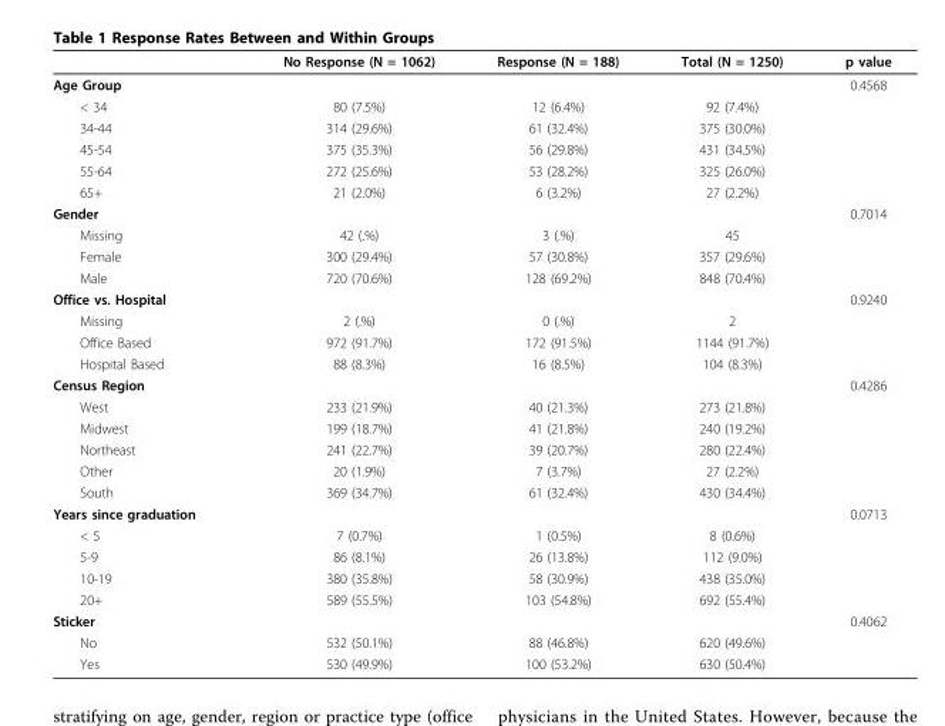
<table><thead><tr><td></td><td>No Response (N = 1062)</td><td>Response (N = 188)</td><td>Total (N = 1250)</td><td>p value</td></tr></thead><tbody><tr><td>Age Group</td><td></td><td></td><td></td><td>0.4568</td></tr><tr><td>&lt; 34</td><td>80 (7.5%)</td><td>12 (6.4%)</td><td>92 (7.4%)</td><td></td></tr><tr><td>34-44</td><td>314 (29.6%)</td><td>61 (32.4%)</td><td>375 (30.0%)</td><td></td></tr><tr><td>45-54</td><td>375 (35.3%)</td><td>56 (29.8%)</td><td>431 (34.5%)</td><td></td></tr><tr><td>55-64</td><td>272 (25.6%)</td><td>53 (28.2%)</td><td>325 (26.0%)</td><td></td></tr><tr><td>65+</td><td>21 (2.0%)</td><td>6 (3.2%)</td><td>27 (2.2%)</td><td></td></tr><tr><td>Gender</td><td></td><td></td><td></td><td>0.7014</td></tr><tr><td>Missing</td><td>42 (.%)</td><td>3 (.%)</td><td>45</td><td></td></tr><tr><td>Female</td><td>300 (29.4%)</td><td>57 (30.8%)</td><td>357 (29.6%)</td><td></td></tr><tr><td>Male</td><td>720 (70.6%)</td><td>128 (69.2%)</td><td>848 (70.4%)</td><td></td></tr><tr><td>Office vs. Hospital</td><td></td><td></td><td></td><td>0.9240</td></tr><tr><td>Missing</td><td>2 (.%)</td><td>0 (.%)</td><td>2</td><td></td></tr><tr><td>Office Based</td><td>972 (91.7%)</td><td>172 (91.5%)</td><td>1144 (91.7%)</td><td></td></tr><tr><td>Hospital Based</td><td>88 (8.3%)</td><td>16 (8.5%)</td><td>104 (8.3%)</td><td></td></tr><tr><td>Census Region</td><td></td><td></td><td></td><td>0.4286</td></tr><tr><td>West</td><td>233 (21.9%)</td><td>40 (21.3%)</td><td>273 (21.8%)</td><td></td></tr><tr><td>Midwest</td><td>199 (18.7%)</td><td>41 (21.8%)</td><td>240 (19.2%)</td><td></td></tr><tr><td>Northeast</td><td>241 (22.7%)</td><td>39 (20.7%)</td><td>280 (22.4%)</td><td></td></tr><tr><td>Other</td><td>20 (1.9%)</td><td>7 (3.7%)</td><td>27 (2.2%)</td><td></td></tr><tr><td>South</td><td>369 (34.7%)</td><td>61 (32.4%)</td><td>430 (34.4%)</td><td></td></tr><tr><td>Years since graduation</td><td></td><td></td><td></td><td>0.0713</td></tr><tr><td>&lt; 5</td><td>7 (0.7%)</td><td>1 (0.5%)</td><td>8 (0.6%)</td><td></td></tr><tr><td>5-9</td><td>86 (8.1%)</td><td>26 (13.8%)</td><td>112 (9.0%)</td><td></td></tr><tr><td>10-19</td><td>380 (35.8%)</td><td>58 (30.9%)</td><td>438 (35.0%)</td><td></td></tr><tr><td>20+</td><td>589 (55.5%)</td><td>103 (54.8%)</td><td>692 (55.4%)</td><td></td></tr><tr><td>Sticker</td><td></td><td></td><td></td><td>0.4062</td></tr><tr><td>No</td><td>532 (50.1%)</td><td>88 (46.8%)</td><td>620 (49.6%)</td><td></td></tr><tr><td>Yes</td><td>530 (49.9%)</td><td>100 (53.2%)</td><td>630 (50.4%)</td><td></td></tr></tbody></table>